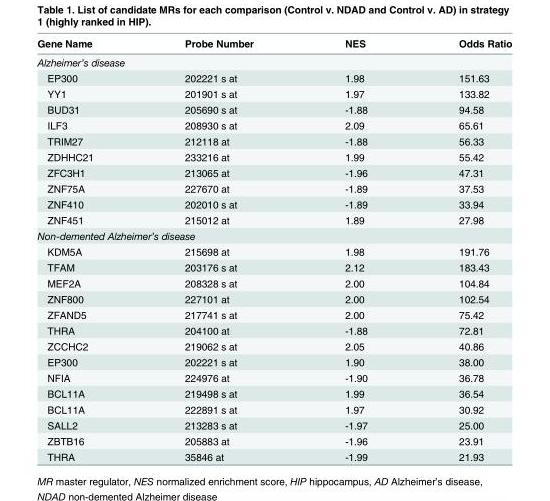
<table><thead><tr><td>Gene Name</td><td>Probe Number</td><td>NES</td><td>Odds Ratio</td></tr></thead><tbody><tr><td colspan="4">Alzheimer’s disease</td></tr><tr><td>EP300</td><td>202221 s at</td><td>1.98</td><td>151.63</td></tr><tr><td>YY1</td><td>201901 s at</td><td>1.97</td><td>133.82</td></tr><tr><td>BUD31</td><td>205690 s at</td><td>-1.88</td><td>94.58</td></tr><tr><td>ILF3</td><td>208930 s at</td><td>2.09</td><td>65.61</td></tr><tr><td>TRIM27</td><td>212118 at</td><td>-1.88</td><td>56.33</td></tr><tr><td>ZDHHC21</td><td>233216 at</td><td>1.99</td><td>55.42</td></tr><tr><td>ZFC3H1</td><td>213065 at</td><td>-1.96</td><td>47.31</td></tr><tr><td>ZNF75A</td><td>227670 at</td><td>-1.89</td><td>37.53</td></tr><tr><td>ZNF410</td><td>202010 s at</td><td>-1.89</td><td>33.94</td></tr><tr><td>ZNF451</td><td>215012 at</td><td>1.89</td><td>27.98</td></tr><tr><td colspan="4">Non-demented Alzheimer’s disease</td></tr><tr><td>KDM5A</td><td>215698 at</td><td>1.98</td><td>191.76</td></tr><tr><td>TFAM</td><td>203176 s at</td><td>2.12</td><td>183.43</td></tr><tr><td>MEF2A</td><td>208328 s at</td><td>2.00</td><td>104.84</td></tr><tr><td>ZNF800</td><td>227101 at</td><td>2.00</td><td>102.54</td></tr><tr><td>ZFAND5</td><td>217741 s at</td><td>2.00</td><td>75.42</td></tr><tr><td>THRA</td><td>204100 at</td><td>-1.88</td><td>72.81</td></tr><tr><td>ZCCHC2</td><td>219062 s at</td><td>2.05</td><td>40.86</td></tr><tr><td>EP300</td><td>202221 s at</td><td>1.90</td><td>38.00</td></tr><tr><td>NFIA</td><td>224976 at</td><td>-1.90</td><td>36.78</td></tr><tr><td>BCL11A</td><td>219498 s at</td><td>1.99</td><td>36.54</td></tr><tr><td>BCL11A</td><td>222891 s at</td><td>1.97</td><td>30.92</td></tr><tr><td>SALL2</td><td>213283 s at</td><td>-1.97</td><td>25.00</td></tr><tr><td>ZBTB16</td><td>205883 at</td><td>-1.96</td><td>23.91</td></tr><tr><td>THRA</td><td>35846 at</td><td>-1.99</td><td>21.93</td></tr></tbody></table>